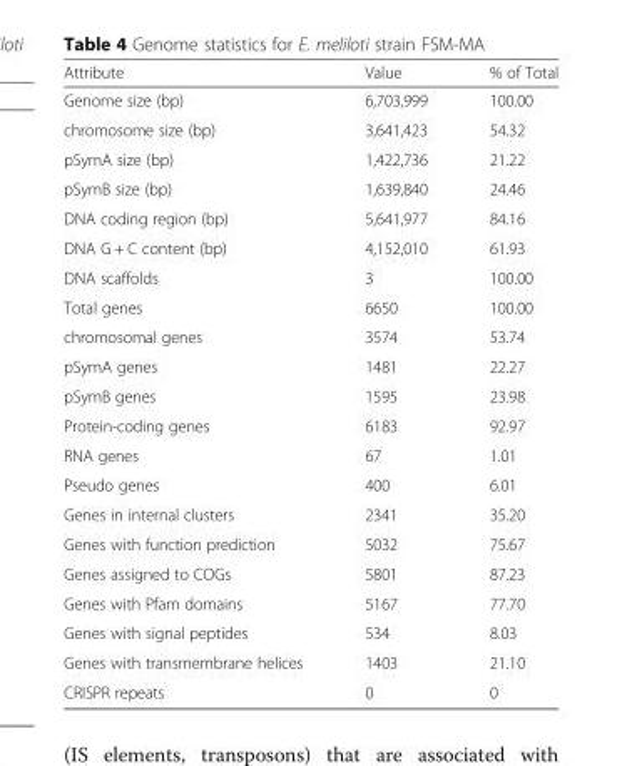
<table><thead><tr><td>Attribute</td><td>Value</td><td>% of Total</td></tr></thead><tbody><tr><td>Genome size (bp)</td><td>6,703,999</td><td>100.00</td></tr><tr><td>chromosome size (bp)</td><td>3,641,423</td><td>54.32</td></tr><tr><td>pSymA size (bp)</td><td>1,422,736</td><td>21.22</td></tr><tr><td>pSymB size (bp)</td><td>1,639,840</td><td>24.46</td></tr><tr><td>DNA coding region (bp)</td><td>5,641,977</td><td>84.16</td></tr><tr><td>DNA G + C content (bp)</td><td>4,152,010</td><td>61.93</td></tr><tr><td>DNA scaffolds</td><td>3</td><td>100.00</td></tr><tr><td>Total genes</td><td>6650</td><td>100.00</td></tr><tr><td>chromosomal genes</td><td>3574</td><td>53.74</td></tr><tr><td>pSymA genes</td><td>1481</td><td>22.27</td></tr><tr><td>pSymB genes</td><td>1595</td><td>23.98</td></tr><tr><td>Protein-coding genes</td><td>6183</td><td>92.97</td></tr><tr><td>RNA genes</td><td>67</td><td>1.01</td></tr><tr><td>Pseudo genes</td><td>400</td><td>6.01</td></tr><tr><td>Genes in internal clusters</td><td>2341</td><td>35.20</td></tr><tr><td>Genes with function prediction</td><td>5032</td><td>75.67</td></tr><tr><td>Genes assigned to COGs</td><td>5801</td><td>87.23</td></tr><tr><td>Genes with Pfam domains</td><td>5167</td><td>77.70</td></tr><tr><td>Genes with signal peptides</td><td>534</td><td>8.03</td></tr><tr><td>Genes with transmembrane helices</td><td>1403</td><td>21.10</td></tr><tr><td>CRISPR repeats</td><td>0</td><td>0</td></tr></tbody></table>